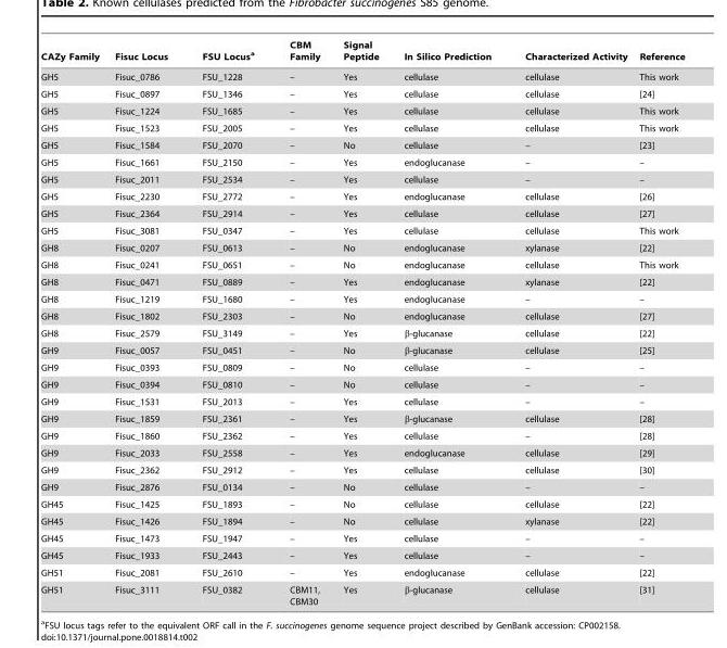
<table><thead><tr><td>CAZy Family</td><td>Fisuc Locus</td><td>FSU Locus<sup>a</sup></td><td>CBM Family</td><td>Signal Peptide</td><td>In Silico Prediction</td><td>Characterized Activity</td><td>Reference</td></tr></thead><tbody><tr><td>GH5</td><td>Fisuc_0786</td><td>FSU_1228</td><td>–</td><td>Yes</td><td>cellulase</td><td>cellulase</td><td>This work</td></tr><tr><td>GH5</td><td>Fisuc_0897</td><td>FSU_1346</td><td>–</td><td>Yes</td><td>cellulase</td><td>cellulase</td><td>[24]</td></tr><tr><td>GH5</td><td>Fisuc_1224</td><td>FSU_1685</td><td>–</td><td>Yes</td><td>cellulase</td><td>cellulase</td><td>This work</td></tr><tr><td>GH5</td><td>Fisuc_1523</td><td>FSU_2005</td><td>–</td><td>Yes</td><td>cellulase</td><td>cellulase</td><td>This work</td></tr><tr><td>GH5</td><td>Fisuc_1584</td><td>FSU_2070</td><td>–</td><td>No</td><td>cellulase</td><td>–</td><td>[23]</td></tr><tr><td>GH5</td><td>Fisuc_1661</td><td>FSU_2150</td><td>–</td><td>Yes</td><td>endoglucanase</td><td>–</td><td>–</td></tr><tr><td>GH5</td><td>Fisuc_2011</td><td>FSU_2534</td><td>–</td><td>Yes</td><td>cellulase</td><td>–</td><td>–</td></tr><tr><td>GH5</td><td>Fisuc_2230</td><td>FSU_2772</td><td>–</td><td>Yes</td><td>endoglucanase</td><td>cellulase</td><td>[26]</td></tr><tr><td>GH5</td><td>Fisuc_2364</td><td>FSU_2914</td><td>–</td><td>Yes</td><td>cellulase</td><td>cellulase</td><td>[27]</td></tr><tr><td>GH5</td><td>Fisuc_3081</td><td>FSU_0347</td><td>–</td><td>Yes</td><td>cellulase</td><td>cellulase</td><td>This work</td></tr><tr><td>GH8</td><td>Fisuc_0207</td><td>FSU_0613</td><td>–</td><td>No</td><td>endoglucanase</td><td>xylanase</td><td>[22]</td></tr><tr><td>GH8</td><td>Fisuc_0241</td><td>FSU_0651</td><td>–</td><td>No</td><td>endoglucanase</td><td>cellulase</td><td>This work</td></tr><tr><td>GH8</td><td>Fisuc_0471</td><td>FSU_0889</td><td>–</td><td>Yes</td><td>endoglucanase</td><td>xylanase</td><td>[22]</td></tr><tr><td>GH8</td><td>Fisuc_1219</td><td>FSU_1680</td><td>–</td><td>Yes</td><td>endoglucanase</td><td>–</td><td>–</td></tr><tr><td>GH8</td><td>Fisuc_1802</td><td>FSU_2303</td><td>–</td><td>No</td><td>endoglucanase</td><td>cellulase</td><td>[27]</td></tr><tr><td>GH8</td><td>Fisuc_2579</td><td>FSU_3149</td><td>–</td><td>Yes</td><td>β-glucanase</td><td>cellulase</td><td>[22]</td></tr><tr><td>GH9</td><td>Fisuc_0057</td><td>FSU_0451</td><td>–</td><td>No</td><td>β-glucanase</td><td>cellulase</td><td>[25]</td></tr><tr><td>GH9</td><td>Fisuc_0393</td><td>FSU_0809</td><td>–</td><td>No</td><td>cellulase</td><td>–</td><td>–</td></tr><tr><td>GH9</td><td>Fisuc_0394</td><td>FSU_0810</td><td>–</td><td>No</td><td>cellulase</td><td>–</td><td>–</td></tr><tr><td>GH9</td><td>Fisuc_1531</td><td>FSU_2013</td><td>–</td><td>Yes</td><td>cellulase</td><td>–</td><td>–</td></tr><tr><td>GH9</td><td>Fisuc_1859</td><td>FSU_2361</td><td>–</td><td>Yes</td><td>β-glucanase</td><td>cellulase</td><td>[28]</td></tr><tr><td>GH9</td><td>Fisuc_1860</td><td>FSU_2362</td><td>–</td><td>Yes</td><td>cellulase</td><td>–</td><td>[28]</td></tr><tr><td>GH9</td><td>Fisuc_2033</td><td>FSU_2558</td><td>–</td><td>Yes</td><td>endoglucanase</td><td>cellulase</td><td>[29]</td></tr><tr><td>GH9</td><td>Fisuc_2362</td><td>FSU_2912</td><td>–</td><td>Yes</td><td>cellulase</td><td>cellulase</td><td>[30]</td></tr><tr><td>GH9</td><td>Fisuc_2876</td><td>FSU_0134</td><td>–</td><td>No</td><td>cellulase</td><td>–</td><td>–</td></tr><tr><td>GH45</td><td>Fisuc_1425</td><td>FSU_1893</td><td>–</td><td>No</td><td>cellulase</td><td>cellulase</td><td>[22]</td></tr><tr><td>GH45</td><td>Fisuc_1426</td><td>FSU_1894</td><td>–</td><td>No</td><td>cellulase</td><td>xylanase</td><td>[22]</td></tr><tr><td>GH45</td><td>Fisuc_1473</td><td>FSU_1947</td><td>–</td><td>Yes</td><td>cellulase</td><td>–</td><td>–</td></tr><tr><td>GH45</td><td>Fisuc_1933</td><td>FSU_2443</td><td>–</td><td>Yes</td><td>cellulase</td><td>–</td><td>–</td></tr><tr><td>GH51</td><td>Fisuc_2081</td><td>FSU_2610</td><td>–</td><td>Yes</td><td>endoglucanase</td><td>cellulase</td><td>[22]</td></tr><tr><td>GH51</td><td>Fisuc_3111</td><td>FSU_0382</td><td>CBM11, CBM30</td><td>Yes</td><td>β-glucanase</td><td>cellulase</td><td>[31]</td></tr></tbody></table>